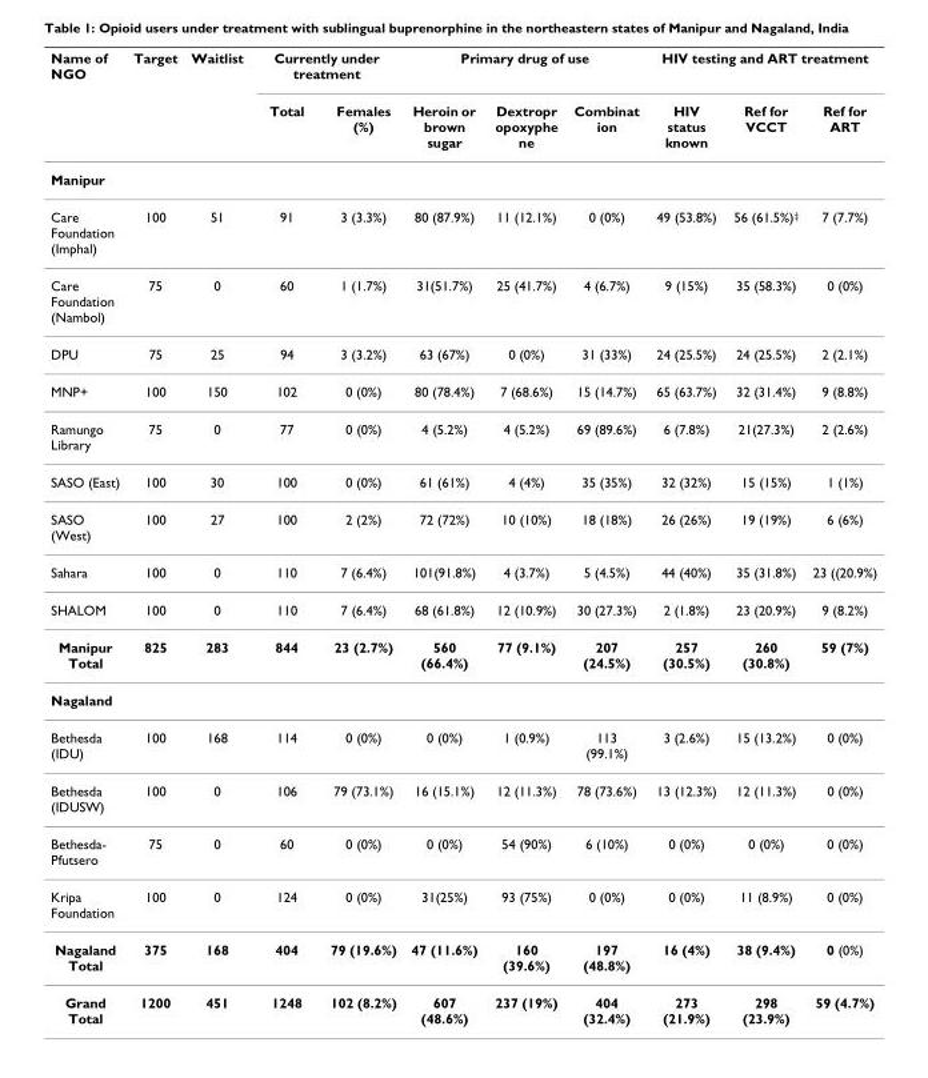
<table><thead><tr><td rowspan="2">Name of NGO</td><td rowspan="2">Target</td><td rowspan="2">Waitlist</td><td colspan="2">Currently under treatment</td><td colspan="3">Primary drug of use</td><td colspan="3">HIV testing and ART treatment</td></tr><tr><td>Total</td><td>Females (%)</td><td>Heroin or brown sugar</td><td>Dextropr opoxyphe ne</td><td>Combinat ion</td><td>HIV status known</td><td>Ref for VCCT</td><td>Ref for ART</td></tr></thead><tbody><tr><td colspan="11">Manipur</td></tr><tr><td>Care Foundation (Imphal)</td><td>100</td><td>51</td><td>91</td><td>3 (3.3%)</td><td>80 (87.9%)</td><td>11 (12.1%)</td><td>0 (0%)</td><td>49 (53.8%)</td><td>56 (61.5%)<sup>‡</sup></td><td>7 (7.7%)</td></tr><tr><td>Care Foundation (Nambol)</td><td>75</td><td>0</td><td>60</td><td>1 (1.7%)</td><td>31(51.7%)</td><td>25 (41.7%)</td><td>4 (6.7%)</td><td>9 (15%)</td><td>35 (58.3%)</td><td>0 (0%)</td></tr><tr><td>DPU</td><td>75</td><td>25</td><td>94</td><td>3 (3.2%)</td><td>63 (67%)</td><td>0 (0%)</td><td>31 (33%)</td><td>24 (25.5%)</td><td>24 (25.5%)</td><td>2 (2.1%)</td></tr><tr><td>MNP+</td><td>100</td><td>150</td><td>102</td><td>0 (0%)</td><td>80 (78.4%)</td><td>7 (68.6%)</td><td>15 (14.7%)</td><td>65 (63.7%)</td><td>32 (31.4%)</td><td>9 (8.8%)</td></tr><tr><td>Ramungo Library</td><td>75</td><td>0</td><td>77</td><td>0 (0%)</td><td>4 (5.2%)</td><td>4 (5.2%)</td><td>69 (89.6%)</td><td>6 (7.8%)</td><td>21(27.3%)</td><td>2 (2.6%)</td></tr><tr><td>SASO (East)</td><td>100</td><td>30</td><td>100</td><td>0 (0%)</td><td>61 (61%)</td><td>4 (4%)</td><td>35 (35%)</td><td>32 (32%)</td><td>15 (15%)</td><td>1 (1%)</td></tr><tr><td>SASO (West)</td><td>100</td><td>27</td><td>100</td><td>2 (2%)</td><td>72 (72%)</td><td>10 (10%)</td><td>18 (18%)</td><td>26 (26%)</td><td>19 (19%)</td><td>6 (6%)</td></tr><tr><td>Sahara</td><td>100</td><td>0</td><td>110</td><td>7 (6.4%)</td><td>101(91.8%)</td><td>4 (3.7%)</td><td>5 (4.5%)</td><td>44 (40%)</td><td>35 (31.8%)</td><td>23 ((20.9%)</td></tr><tr><td>SHALOM</td><td>100</td><td>0</td><td>110</td><td>7 (6.4%)</td><td>68 (61.8%)</td><td>12 (10.9%)</td><td>30 (27.3%)</td><td>2 (1.8%)</td><td>23 (20.9%)</td><td>9 (8.2%)</td></tr><tr><td>Manipur Total</td><td>825</td><td>283</td><td>844</td><td>23 (2.7%)</td><td>560 (66.4%)</td><td>77 (9.1%)</td><td>207 (24.5%)</td><td>257 (30.5%)</td><td>260 (30.8%)</td><td>59 (7%)</td></tr><tr><td colspan="11">Nagaland</td></tr><tr><td>Bethesda (IDU)</td><td>100</td><td>168</td><td>114</td><td>0 (0%)</td><td>0 (0%)</td><td>1 (0.9%)</td><td>113 (99.1%)</td><td>3 (2.6%)</td><td>15 (13.2%)</td><td>0 (0%)</td></tr><tr><td>Bethesda (IDUSW)</td><td>100</td><td>0</td><td>106</td><td>79 (73.1%)</td><td>16 (15.1%)</td><td>12 (11.3%)</td><td>78 (73.6%)</td><td>13 (12.3%)</td><td>12 (11.3%)</td><td>0 (0%)</td></tr><tr><td>Bethesda- Pfutsero</td><td>75</td><td>0</td><td>60</td><td>0 (0%)</td><td>0 (0%)</td><td>54 (90%)</td><td>6 (10%)</td><td>0 (0%)</td><td>0 (0%)</td><td>0 (0%)</td></tr><tr><td>Kripa Foundation</td><td>100</td><td>0</td><td>124</td><td>0 (0%)</td><td>31(25%)</td><td>93 (75%)</td><td>0 (0%)</td><td>0 (0%)</td><td>11 (8.9%)</td><td>0 (0%)</td></tr><tr><td>Nagaland Total</td><td>375</td><td>168</td><td>404</td><td>79 (19.6%)</td><td>47 (11.6%)</td><td>160 (39.6%)</td><td>197 (48.8%)</td><td>16 (4%)</td><td>38 (9.4%)</td><td>0 (0%)</td></tr><tr><td>Grand Total</td><td>1200</td><td>451</td><td>1248</td><td>102 (8.2%)</td><td>607 (48.6%)</td><td>237 (19%)</td><td>404 (32.4%)</td><td>273 (21.9%)</td><td>298 (23.9%)</td><td>59 (4.7%)</td></tr></tbody></table>